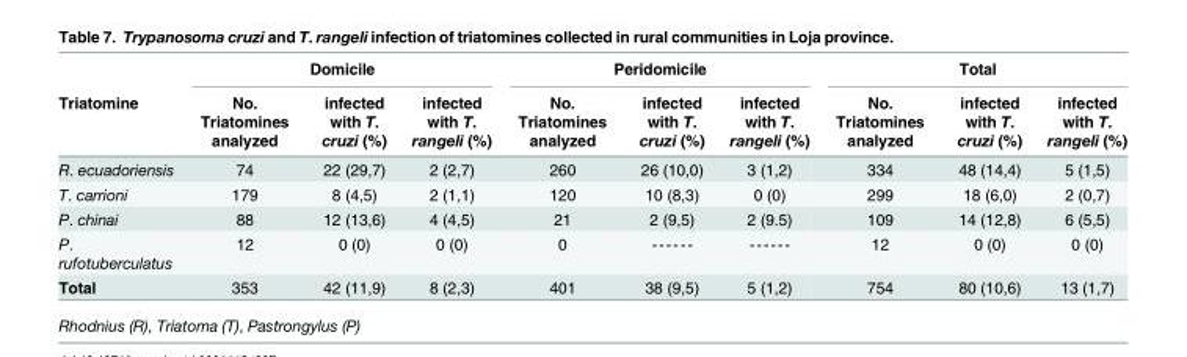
<table><thead><tr><td rowspan="2">Triatomine</td><td colspan="3">Domicile</td><td colspan="3">Peridomicile</td><td colspan="3">Total</td></tr><tr><td>No. Triatomines analyzed</td><td>infected with T. cruzi (%)</td><td>infected with T. rangeli (%)</td><td>No. Triatomines analyzed</td><td>infected with T. cruzi (%)</td><td>infected with T. rangeli (%)</td><td>No. Triatomines analyzed</td><td>infected with T. cruzi (%)</td><td>infected with T. rangeli (%)</td></tr></thead><tbody><tr><td>R. ecuadoriensis</td><td>74</td><td>22 (29,7)</td><td>2 (2,7)</td><td>260</td><td>26 (10,0)</td><td>3 (1,2)</td><td>334</td><td>48 (14,4)</td><td>5 (1,5)</td></tr><tr><td>T. carrioni</td><td>179</td><td>8 (4,5)</td><td>2 (1,1)</td><td>120</td><td>10 (8,3)</td><td>0 (0)</td><td>299</td><td>18 (6,0)</td><td>2 (0,7)</td></tr><tr><td>P. chinai</td><td>88</td><td>12 (13,6)</td><td>4 (4,5)</td><td>21</td><td>2 (9,5)</td><td>2 (9.5)</td><td>109</td><td>14 (12,8)</td><td>6 (5,5)</td></tr><tr><td>P. rufotuberculatus</td><td>12</td><td>0 (0)</td><td>0 (0)</td><td>0</td><td>------</td><td>------</td><td>12</td><td>0 (0)</td><td>0 (0)</td></tr><tr><td>Total</td><td>353</td><td>42 (11,9)</td><td>8 (2,3)</td><td>401</td><td>38 (9,5)</td><td>5 (1,2)</td><td>754</td><td>80 (10,6)</td><td>13 (1,7)</td></tr></tbody></table>